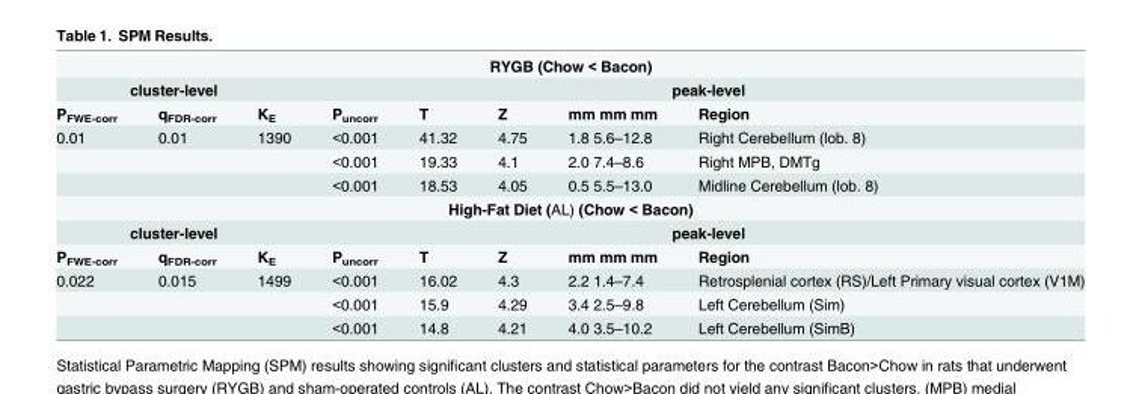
<table><tbody><tr><td colspan="8">RYGB (Chow &lt; Bacon)</td></tr><tr><td colspan="3">cluster-level</td><td colspan="5">peak-level</td></tr><tr><td>P<sub>FWE-corr</sub></td><td>q<sub>FDR-corr</sub></td><td>K<sub>E</sub></td><td>P<sub>uncorr</sub></td><td>T</td><td>Z</td><td>mm mm mm</td><td>Region</td></tr><tr><td rowspan="3">0.01</td><td>0.01</td><td>1390</td><td>&lt;0.001</td><td>41.32</td><td>4.75</td><td>1.8 5.6–12.8</td><td>Right Cerebellum (lob. 8)</td></tr><tr><td></td><td></td><td>&lt;0.001</td><td>19.33</td><td>4.1</td><td>2.0 7.4–8.6</td><td>Right MPB, DMTg</td></tr><tr><td></td><td></td><td>&lt;0.001</td><td>18.53</td><td>4.05</td><td>0.5 5.5–13.0</td><td>Midline Cerebellum (lob. 8)</td></tr><tr><td colspan="8">High-Fat Diet (AL) (Chow &lt; Bacon)</td></tr><tr><td colspan="3">cluster-level</td><td colspan="5">peak-level</td></tr><tr><td>P<sub>FWE-corr</sub></td><td>q<sub>FDR-corr</sub></td><td>K<sub>E</sub></td><td>P<sub>uncorr</sub></td><td>T</td><td>Z</td><td>mm mm mm</td><td>Region</td></tr><tr><td rowspan="3">0.022</td><td>0.015</td><td>1499</td><td>&lt;0.001</td><td>16.02</td><td>4.3</td><td>2.2 1.4–7.4</td><td>Retrosplenial cortex (RS)/Left Primary visual cortex (V1M)</td></tr><tr><td></td><td></td><td>&lt;0.001</td><td>15.9</td><td>4.29</td><td>3.4 2.5–9.8</td><td>Left Cerebellum (Sim)</td></tr><tr><td></td><td></td><td>&lt;0.001</td><td>14.8</td><td>4.21</td><td>4.0 3.5–10.2</td><td>Left Cerebellum (SimB)</td></tr></tbody></table>